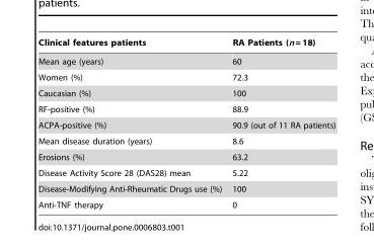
<table><thead><tr><td>Clinical features patients</td><td>RA Patients (n = 18)</td></tr></thead><tbody><tr><td>Mean age (years)</td><td>60</td></tr><tr><td>Women (%)</td><td>72.3</td></tr><tr><td>Caucasian (%)</td><td>100</td></tr><tr><td>RF-positive (%)</td><td>88.9</td></tr><tr><td>ACPA-positive (%)</td><td>90.9 (out of 11 RA patients)</td></tr><tr><td>Mean disease duration (years)</td><td>8.6</td></tr><tr><td>Erosions (%)</td><td>63.2</td></tr><tr><td>Disease Activity Score 28 (DAS28) mean</td><td>5.22</td></tr><tr><td>Disease-Modifying Anti-Rheumatic Drugs use (%)</td><td>100</td></tr><tr><td>Anti-TNF therapy</td><td>0</td></tr></tbody></table>